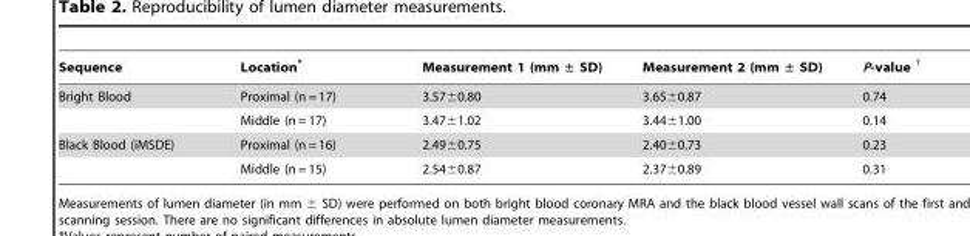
<table><thead><tr><td>Sequence</td><td>Location*</td><td>Measurement 1 (mm ± SD)</td><td>Measurement 2 (mm ± SD)</td><td>P-value</td></tr></thead><tbody><tr><td rowspan="2">Bright Blood</td><td>Proximal (n = 17)</td><td>3.57±0.80</td><td>3.65±0.87</td><td>0.74</td></tr><tr><td>Middle (n = 17)</td><td>3.47±1.02</td><td>3.44±1.00</td><td>0.14</td></tr><tr><td rowspan="2">Black Blood (iMSDE)</td><td>Proximal (n = 16)</td><td>2.49±0.75</td><td>2.40±0.73</td><td>0.23</td></tr><tr><td>Middle (n = 15)</td><td>2.54±0.87</td><td>2.37±0.89</td><td>0.31</td></tr></tbody></table>